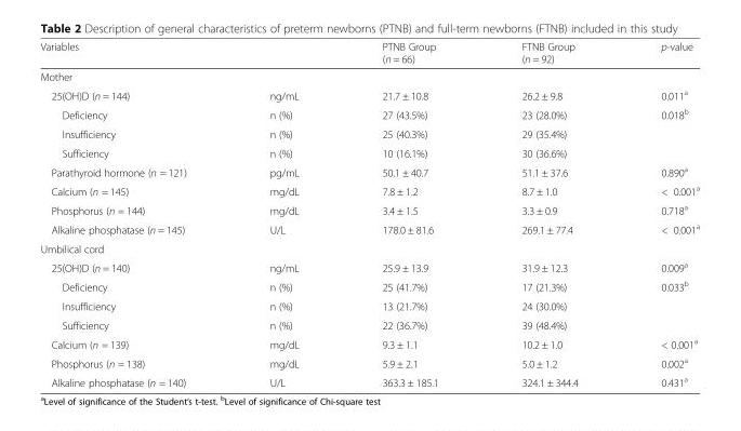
<table><thead><tr><td colspan="2">Variables</td><td>PTNB Group (n = 66)</td><td>FTNB Group (n = 92)</td><td>p-value</td></tr><tr><td colspan="5">Mother</td></tr><tr><td>25(OH)D (n = 144)</td><td>ng/mL</td><td>21.7 ± 10.8</td><td>26.2 ± 9.8</td><td>0.011<sup>a</sup></td></tr></thead><tbody><tr><td>Deficiency</td><td>n (%)</td><td>27 (43.5%)</td><td>23 (28.0%)</td><td>0.018<sup>b</sup></td></tr><tr><td>Insufficiency</td><td>n (%)</td><td>25 (40.3%)</td><td>29 (35.4%)</td><td></td></tr><tr><td>Sufficiency</td><td>n (%)</td><td>10 (16.1%)</td><td>30 (36.6%)</td><td></td></tr><tr><td>Parathyroid hormone (n = 121)</td><td>pg/mL</td><td>50.1 ± 40.7</td><td>51.1 ± 37.6</td><td>0.890<sup>a</sup></td></tr><tr><td>Calcium (n = 145)</td><td>mg/dL</td><td>7.8 ± 1.2</td><td>8.7 ± 1.0</td><td>&lt; 0.001<sup>a</sup></td></tr><tr><td>Phosphorus (n = 144)</td><td>mg/dL</td><td>3.4 ± 1.5</td><td>3.3 ± 0.9</td><td>0.718<sup>a</sup></td></tr><tr><td>Alkaline phosphatase (n = 145)</td><td>U/L</td><td>178.0 ± 81.6</td><td>269.1 ± 77.4</td><td>&lt; 0.001<sup>a</sup></td></tr><tr><td colspan="5">Umbilical cord</td></tr><tr><td>25(OH)D (n = 140)</td><td>ng/mL</td><td>25.9 ± 13.9</td><td>31.9 ± 12.3</td><td>0.009<sup>a</sup></td></tr><tr><td>Deficiency</td><td>n (%)</td><td>25 (41.7%)</td><td>17 (21.3%)</td><td>0.033<sup>b</sup></td></tr><tr><td>Insufficiency</td><td>n (%)</td><td>13 (21.7%)</td><td>24 (30.0%)</td><td></td></tr><tr><td>Sufficiency</td><td>n (%)</td><td>22 (36.7%)</td><td>39 (48.4%)</td><td></td></tr><tr><td>Calcium (n = 139)</td><td>mg/dL</td><td>9.3 ± 1.1</td><td>10.2 ± 1.0</td><td>&lt; 0.001<sup>a</sup></td></tr><tr><td>Phosphorus (n = 138)</td><td>mg/dL</td><td>5.9 ± 2.1</td><td>5.0 ± 1.2</td><td>0.002<sup>a</sup></td></tr><tr><td>Alkaline phosphatase (n = 140)</td><td>U/L</td><td>363.3 ± 185.1</td><td>324.1 ± 344.4</td><td>0.431<sup>a</sup></td></tr></tbody></table>